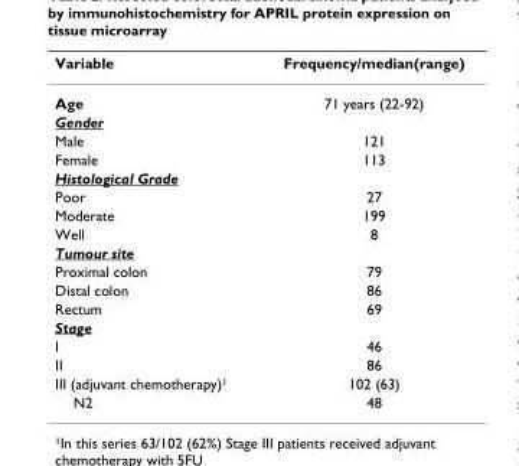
<table><thead><tr><td>Variable</td><td>Frequency/median(range)</td></tr></thead><tbody><tr><td>Age</td><td>71 years (22-92)</td></tr><tr><td colspan="2">Gender</td></tr><tr><td>Male</td><td>121</td></tr><tr><td>Female</td><td>113</td></tr><tr><td colspan="2">Histological Grade</td></tr><tr><td>Poor</td><td>27</td></tr><tr><td>Moderate</td><td>199</td></tr><tr><td>Well</td><td>8</td></tr><tr><td colspan="2">Tumour site</td></tr><tr><td>Proximal colon</td><td>79</td></tr><tr><td>Distal colon</td><td>86</td></tr><tr><td>Rectum</td><td>69</td></tr><tr><td colspan="2">Stage</td></tr><tr><td>I</td><td>46</td></tr><tr><td>II</td><td>86</td></tr><tr><td>III (adjuvant chemotherapy)<sup>1</sup></td><td>102 (63)</td></tr><tr><td>N2</td><td>48</td></tr></tbody></table>